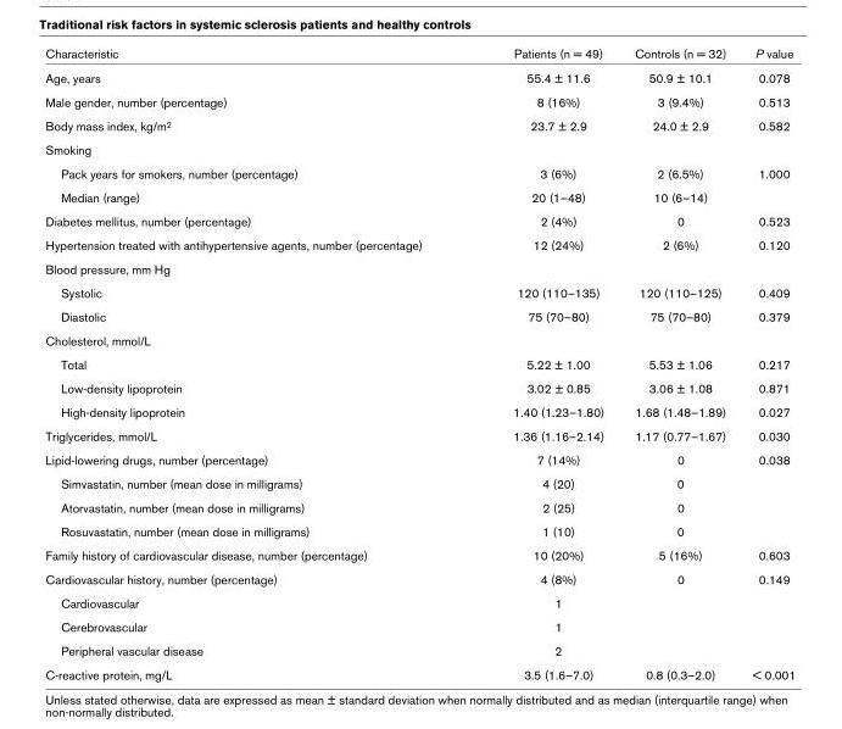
<table><thead><tr><td>Characteristic</td><td>Patients (n = 49)</td><td>Controls (n = 32)</td><td>P value</td></tr></thead><tbody><tr><td>Age, years</td><td>55.4 ± 11.6</td><td>50.9 ± 10.1</td><td>0.078</td></tr><tr><td>Male gender, number (percentage)</td><td>8 (16%)</td><td>3 (9.4%)</td><td>0.513</td></tr><tr><td>Body mass index, kg/m<sup>2</sup></td><td>23.7 ± 2.9</td><td>24.0 ± 2.9</td><td>0.582</td></tr><tr><td colspan="4">Smoking</td></tr><tr><td>Pack years for smokers, number (percentage)</td><td>3 (6%)</td><td>2 (6.5%)</td><td>1.000</td></tr><tr><td>Median (range)</td><td>20 (1–48)</td><td>10 (6–14)</td><td></td></tr><tr><td>Diabetes mellitus, number (percentage)</td><td>2 (4%)</td><td>0</td><td>0.523</td></tr><tr><td>Hypertension treated with antihypertensive agents, number (percentage)</td><td>12 (24%)</td><td>2 (6%)</td><td>0.120</td></tr><tr><td colspan="4">Blood pressure, mm Hg</td></tr><tr><td>Systolic</td><td>120 (110–135)</td><td>120 (110–125)</td><td>0.409</td></tr><tr><td>Diastolic</td><td>75 (70–80)</td><td>75 (70–80)</td><td>0.379</td></tr><tr><td colspan="4">Cholesterol, mmol/L</td></tr><tr><td>Total</td><td>5.22 ± 1.00</td><td>5.53 ± 1.06</td><td>0.217</td></tr><tr><td>Low-density lipoprotein</td><td>3.02 ± 0.85</td><td>3.06 ± 1.08</td><td>0.871</td></tr><tr><td>High-density lipoprotein</td><td>1.40 (1.23–1.80)</td><td>1.68 (1.48–1.89)</td><td>0.027</td></tr><tr><td>Triglycerides, mmol/L</td><td>1.36 (1.16–2.14)</td><td>1.17 (0.77–1.67)</td><td>0.030</td></tr><tr><td>Lipid-lowering drugs, number (percentage)</td><td>7 (14%)</td><td>0</td><td>0.038</td></tr><tr><td>Simvastatin, number (mean dose in milligrams)</td><td>4 (20)</td><td>0</td><td></td></tr><tr><td>Atorvastatin, number (mean dose in milligrams)</td><td>2 (25)</td><td>0</td><td></td></tr><tr><td>Rosuvastatin, number (mean dose in milligrams)</td><td>1 (10)</td><td>0</td><td></td></tr><tr><td>Family history of cardiovascular disease, number (percentage)</td><td>10 (20%)</td><td>5 (16%)</td><td>0.603</td></tr><tr><td>Cardiovascular history, number (percentage)</td><td>4 (8%)</td><td>0</td><td>0.149</td></tr><tr><td>Cardiovascular</td><td>1</td><td></td><td></td></tr><tr><td>Cerebrovascular</td><td>1</td><td></td><td></td></tr><tr><td>Peripheral vascular disease</td><td>2</td><td></td><td></td></tr><tr><td>C-reactive protein, mg/L</td><td>3.5 (1.6–7.0)</td><td>0.8 (0.3–2.0)</td><td>&lt; 0.001</td></tr></tbody></table>